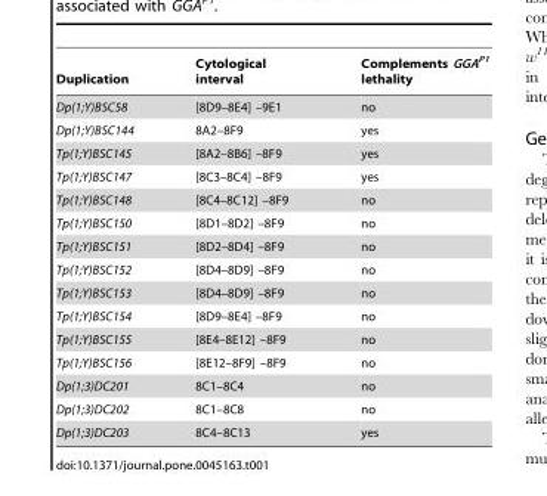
<table><thead><tr><td>Duplication</td><td>Cytological interval</td><td>Complements GGA<sup>P1</sup> lethality</td></tr></thead><tbody><tr><td>Dp(1;Y)BSC58</td><td>[8D9–8E4] –9E1</td><td>no</td></tr><tr><td>Dp(1;Y)BSC144</td><td>8A2–8F9</td><td>yes</td></tr><tr><td>Tp(1;Y)BSC145</td><td>[8A2–8B6] –8F9</td><td>yes</td></tr><tr><td>Tp(1;Y)BSC147</td><td>[8C3–8C4] –8F9</td><td>yes</td></tr><tr><td>Tp(1;Y)BSC148</td><td>[8C4–8C12] –8F9</td><td>no</td></tr><tr><td>Tp(1;Y)BSC150</td><td>[8D1–8D2] –8F9</td><td>no</td></tr><tr><td>Tp(1;Y)BSC151</td><td>[8D2–8D4] –8F9</td><td>no</td></tr><tr><td>Tp(1;Y)BSC152</td><td>[8D4–8D9] –8F9</td><td>no</td></tr><tr><td>Tp(1;Y)BSC153</td><td>[8D4–8D9] –8F9</td><td>no</td></tr><tr><td>Tp(1;Y)BSC154</td><td>[8D9–8E4] –8F9</td><td>no</td></tr><tr><td>Tp(1;Y)BSC155</td><td>[8E4–8E12] –8F9</td><td>no</td></tr><tr><td>Tp(1;Y)BSC156</td><td>[8E12–8F9] –8F9</td><td>no</td></tr><tr><td>Dp(1;3)DC201</td><td>8C1–8C4</td><td>no</td></tr><tr><td>Dp(1;3)DC202</td><td>8C1–8C8</td><td>no</td></tr><tr><td>Dp(1;3)DC203</td><td>8C4–8C13</td><td>yes</td></tr></tbody></table>